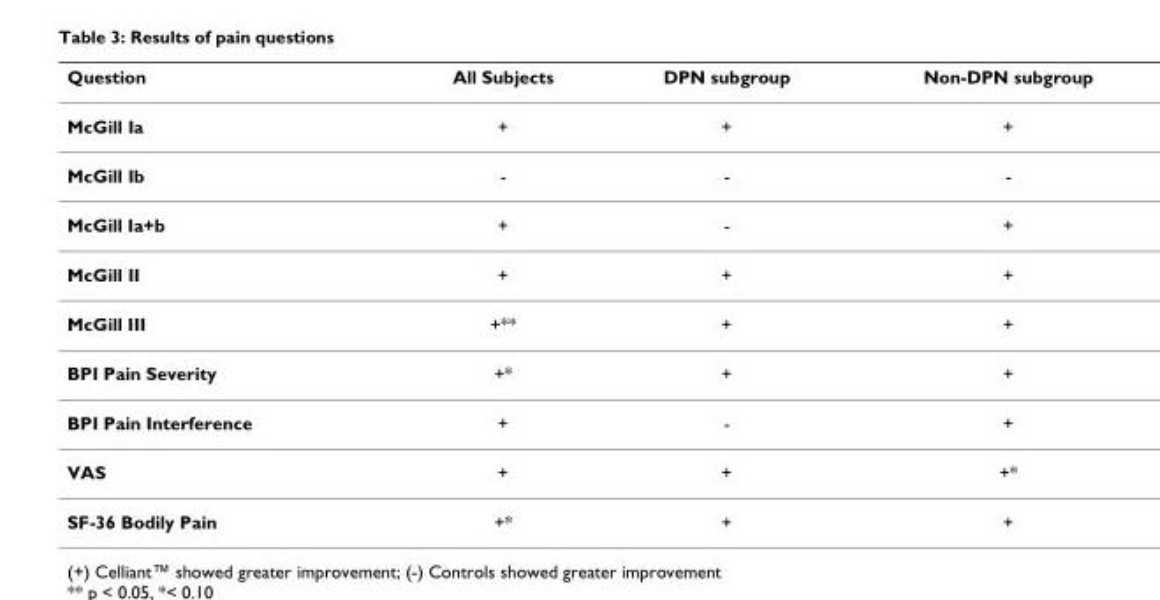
<table><thead><tr><td>Question</td><td>All Subjects</td><td>DPN subgroup</td><td>Non-DPN subgroup</td></tr></thead><tbody><tr><td>McGill Ia</td><td>+</td><td>+</td><td>+</td></tr><tr><td>McGill Ib</td><td>-</td><td>-</td><td>-</td></tr><tr><td>McGill Ia+b</td><td>+</td><td>-</td><td>+</td></tr><tr><td>McGill II</td><td>+</td><td>+</td><td>+</td></tr><tr><td>McGill III</td><td>+**</td><td>+</td><td>+</td></tr><tr><td>BPI Pain Severity</td><td>+*</td><td>+</td><td>+</td></tr><tr><td>BPI Pain Interference</td><td>+</td><td>-</td><td>+</td></tr><tr><td>VAS</td><td>+</td><td>+</td><td>+*</td></tr><tr><td>SF-36 Bodily Pain</td><td>+*</td><td>+</td><td>+</td></tr></tbody></table>